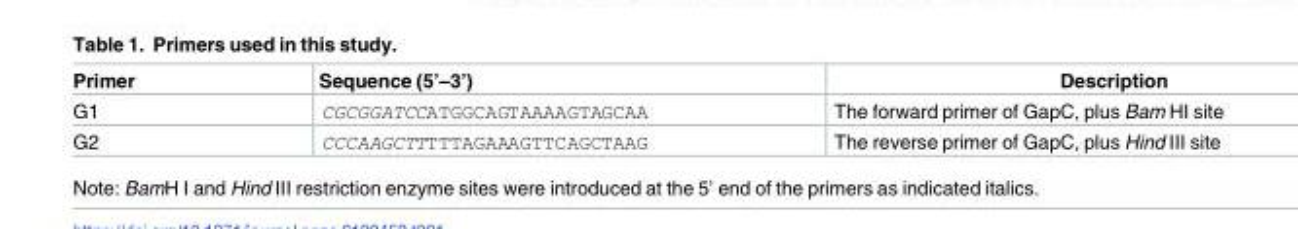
<table><thead><tr><td>Primer</td><td>Sequence (5’–3’)</td><td>Description</td></tr></thead><tbody><tr><td>G1</td><td>CGCGGATCCATGGCAGTAAAAGTAGCAA</td><td>The forward primer of GapC, plus Bam HI site</td></tr><tr><td>G2</td><td>CCCAAGCTTTTTAGAAAGTTCAGCTAAG</td><td>The reverse primer of GapC, plus Hind III site</td></tr></tbody></table>